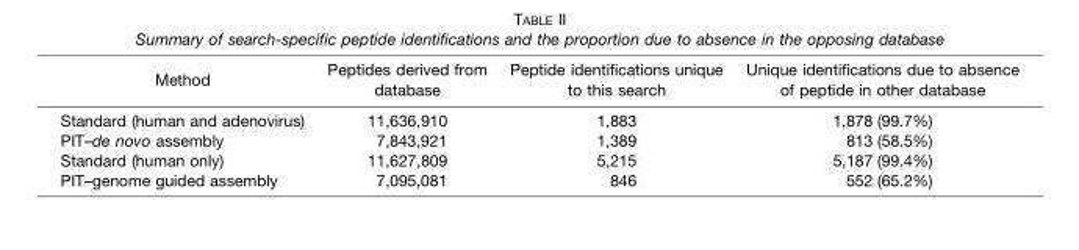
<table><thead><tr><td>Method</td><td>Peptides derived from database</td><td>Peptide identifications unique to this search</td><td>Unique identifications due to absence of peptide in other database</td></tr></thead><tbody><tr><td>Standard (human and adenovirus)</td><td>11,636,910</td><td>1,883</td><td>1,878 (99.7%)</td></tr><tr><td>PIT–de novo assembly</td><td>7,843,921</td><td>1,389</td><td>813 (58.5%)</td></tr><tr><td>Standard (human only)</td><td>11,627,809</td><td>5,215</td><td>5,187 (99.4%)</td></tr><tr><td>PIT–genome guided assembly</td><td>7,095,081</td><td>846</td><td>552 (65.2%)</td></tr></tbody></table>